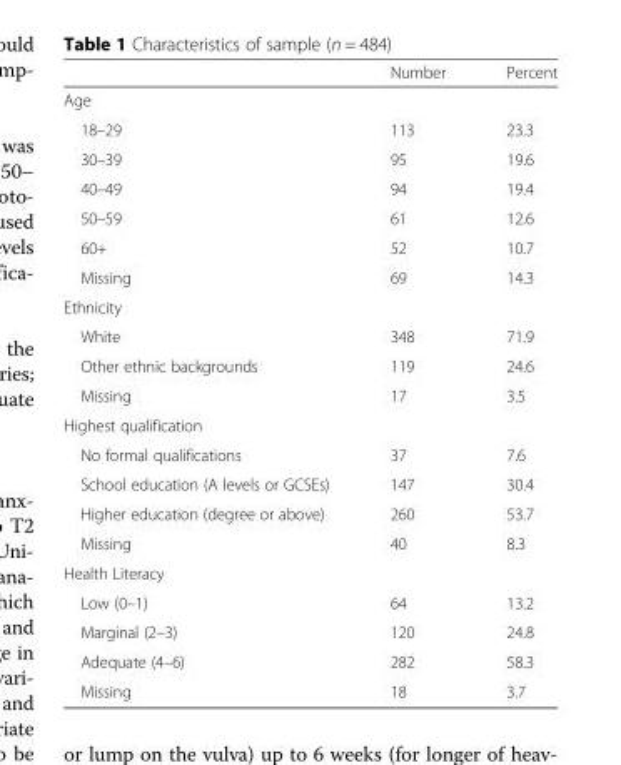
<table><thead><tr><td></td><td>Number</td><td>Percent</td></tr></thead><tbody><tr><td colspan="3">Age</td></tr><tr><td>18–29</td><td>113</td><td>23.3</td></tr><tr><td>30–39</td><td>95</td><td>19.6</td></tr><tr><td>40–49</td><td>94</td><td>19.4</td></tr><tr><td>50–59</td><td>61</td><td>12.6</td></tr><tr><td>60+</td><td>52</td><td>10.7</td></tr><tr><td>Missing</td><td>69</td><td>14.3</td></tr><tr><td colspan="3">Ethnicity</td></tr><tr><td>White</td><td>348</td><td>71.9</td></tr><tr><td>Other ethnic backgrounds</td><td>119</td><td>24.6</td></tr><tr><td>Missing</td><td>17</td><td>3.5</td></tr><tr><td colspan="3">Highest qualification</td></tr><tr><td>No formal qualifications</td><td>37</td><td>7.6</td></tr><tr><td>School education (A levels or GCSEs)</td><td>147</td><td>30.4</td></tr><tr><td>Higher education (degree or above)</td><td>260</td><td>53.7</td></tr><tr><td>Missing</td><td>40</td><td>8.3</td></tr><tr><td colspan="3">Health Literacy</td></tr><tr><td>Low (0–1)</td><td>64</td><td>13.2</td></tr><tr><td>Marginal (2–3)</td><td>120</td><td>24.8</td></tr><tr><td>Adequate (4–6)</td><td>282</td><td>58.3</td></tr><tr><td>Missing</td><td>18</td><td>3.7</td></tr></tbody></table>